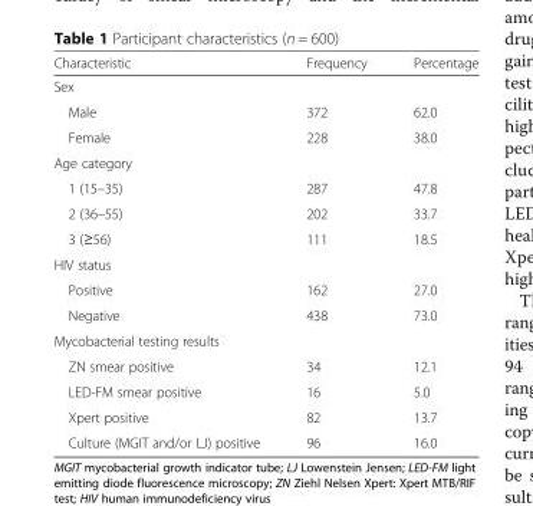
<table><thead><tr><td>Characteristic</td><td>Frequency</td><td>Percentage</td></tr></thead><tbody><tr><td colspan="3">Sex</td></tr><tr><td>Male</td><td>372</td><td>62.0</td></tr><tr><td>Female</td><td>228</td><td>38.0</td></tr><tr><td colspan="3">Age category</td></tr><tr><td>1 (15–35)</td><td>287</td><td>47.8</td></tr><tr><td>2 (36–55)</td><td>202</td><td>33.7</td></tr><tr><td>3 (≥56)</td><td>111</td><td>18.5</td></tr><tr><td colspan="3">HIV status</td></tr><tr><td>Positive</td><td>162</td><td>27.0</td></tr><tr><td>Negative</td><td>438</td><td>73.0</td></tr><tr><td colspan="3">Mycobacterial testing results</td></tr><tr><td>ZN smear positive</td><td>34</td><td>12.1</td></tr><tr><td>LED-FM smear positive</td><td>16</td><td>5.0</td></tr><tr><td>Xpert positive</td><td>82</td><td>13.7</td></tr><tr><td>Culture (MGIT and/or LJ) positive</td><td>96</td><td>16.0</td></tr></tbody></table>